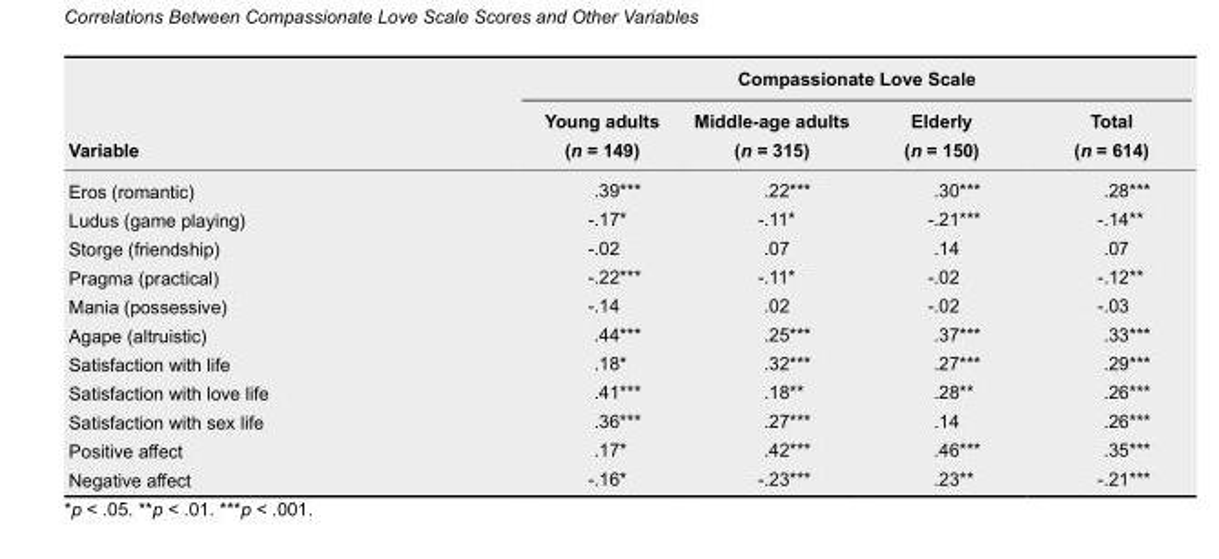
<table><thead><tr><td rowspan="2">Variable</td><td colspan="4">Compassionate Love Scale</td></tr><tr><td>Young adults (n = 149)</td><td>Middle-age adults (n = 315)</td><td>Elderly (n = 150)</td><td>Total (n = 614)</td></tr></thead><tbody><tr><td>Eros (romantic)</td><td>.39***</td><td>.22***</td><td>.30***</td><td>.28***</td></tr><tr><td>Ludus (game playing)</td><td>-.17*</td><td>-.11*</td><td>-.21***</td><td>-.14**</td></tr><tr><td>Storge (friendship)</td><td>-.02</td><td>.07</td><td>.14</td><td>.07</td></tr><tr><td>Pragma (practical)</td><td>-.22***</td><td>-.11*</td><td>-.02</td><td>-.12**</td></tr><tr><td>Mania (possessive)</td><td>-.14</td><td>.02</td><td>-.02</td><td>-.03</td></tr><tr><td>Agape (altruistic)</td><td>.44***</td><td>.25***</td><td>.37***</td><td>.33***</td></tr><tr><td>Satisfaction with life</td><td>.18*</td><td>.32***</td><td>.27***</td><td>.29***</td></tr><tr><td>Satisfaction with love life</td><td>.41***</td><td>.18**</td><td>.28**</td><td>.26***</td></tr><tr><td>Satisfaction with sex life</td><td>.36***</td><td>.27***</td><td>.14</td><td>.26***</td></tr><tr><td>Positive affect</td><td>.17*</td><td>.42***</td><td>.46***</td><td>.35***</td></tr><tr><td>Negative affect</td><td>-.16*</td><td>-.23***</td><td>.23**</td><td>-.21***</td></tr></tbody></table>